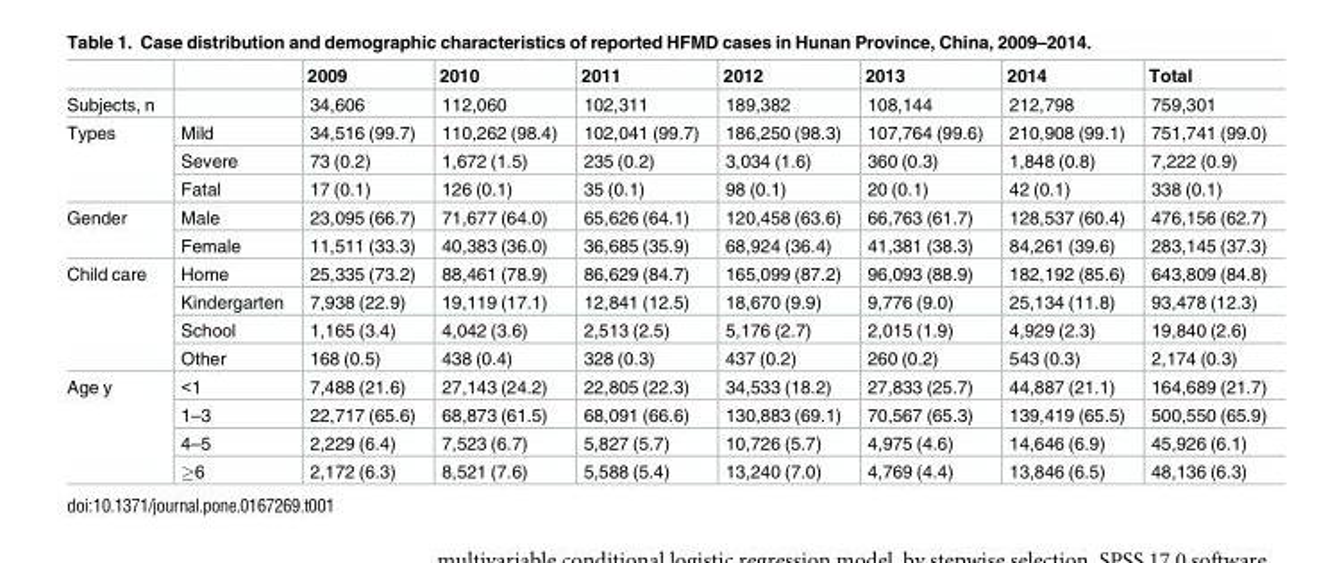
<table><thead><tr><td></td><td></td><td>2009</td><td>2010</td><td>2011</td><td>2012</td><td>2013</td><td>2014</td><td>Total</td></tr></thead><tbody><tr><td>Subjects, n</td><td></td><td>34,606</td><td>112,060</td><td>102,311</td><td>189,382</td><td>108,144</td><td>212,798</td><td>759,301</td></tr><tr><td rowspan="3">Types</td><td>Mild</td><td>34,516 (99.7)</td><td>110,262 (98.4)</td><td>102,041 (99.7)</td><td>186,250 (98.3)</td><td>107,764 (99.6)</td><td>210,908 (99.1)</td><td>751,741 (99.0)</td></tr><tr><td>Severe</td><td>73 (0.2)</td><td>1,672 (1.5)</td><td>235 (0.2)</td><td>3,034 (1.6)</td><td>360 (0.3)</td><td>1,848 (0.8)</td><td>7,222 (0.9)</td></tr><tr><td>Fatal</td><td>17 (0.1)</td><td>126 (0.1)</td><td>35 (0.1)</td><td>98 (0.1)</td><td>20 (0.1)</td><td>42 (0.1)</td><td>338 (0.1)</td></tr><tr><td rowspan="2">Gender</td><td>Male</td><td>23,095 (66.7)</td><td>71,677 (64.0)</td><td>65,626 (64.1)</td><td>120,458 (63.6)</td><td>66,763 (61.7)</td><td>128,537 (60.4)</td><td>476,156 (62.7)</td></tr><tr><td>Female</td><td>11,511 (33.3)</td><td>40,383 (36.0)</td><td>36,685 (35.9)</td><td>68,924 (36.4)</td><td>41,381 (38.3)</td><td>84,261 (39.6)</td><td>283,145 (37.3)</td></tr><tr><td rowspan="4">Child care</td><td>Home</td><td>25,335 (73.2)</td><td>88,461 (78.9)</td><td>86,629 (84.7)</td><td>165,099 (87.2)</td><td>96,093 (88.9)</td><td>182,192 (85.6)</td><td>643,809 (84.8)</td></tr><tr><td>Kindergarten</td><td>7,938 (22.9)</td><td>19,119 (17.1)</td><td>12,841 (12.5)</td><td>18,670 (9.9)</td><td>9,776 (9.0)</td><td>25,134 (11.8)</td><td>93,478 (12.3)</td></tr><tr><td>School</td><td>1,165 (3.4)</td><td>4,042 (3.6)</td><td>2,513 (2.5)</td><td>5,176 (2.7)</td><td>2,015 (1.9)</td><td>4,929 (2.3)</td><td>19,840 (2.6)</td></tr><tr><td>Other</td><td>168 (0.5)</td><td>438 (0.4)</td><td>328 (0.3)</td><td>437 (0.2)</td><td>260 (0.2)</td><td>543 (0.3)</td><td>2,174 (0.3)</td></tr><tr><td rowspan="4">Age y</td><td>&lt;1</td><td>7,488 (21.6)</td><td>27,143 (24.2)</td><td>22,805 (22.3)</td><td>34,533 (18.2)</td><td>27,833 (25.7)</td><td>44,887 (21.1)</td><td>164,689 (21.7)</td></tr><tr><td>1–3</td><td>22,717 (65.6)</td><td>68,873 (61.5)</td><td>68,091 (66.6)</td><td>130,883 (69.1)</td><td>70,567 (65.3)</td><td>139,419 (65.5)</td><td>500,550 (65.9)</td></tr><tr><td>4–5</td><td>2,229 (6.4)</td><td>7,523 (6.7)</td><td>5,827 (5.7)</td><td>10,726 (5.7)</td><td>4,975 (4.6)</td><td>14,646 (6.9)</td><td>45,926 (6.1)</td></tr><tr><td>≥6</td><td>2,172 (6.3)</td><td>8,521 (7.6)</td><td>5,588 (5.4)</td><td>13,240 (7.0)</td><td>4,769 (4.4)</td><td>13,846 (6.5)</td><td>48,136 (6.3)</td></tr></tbody></table>